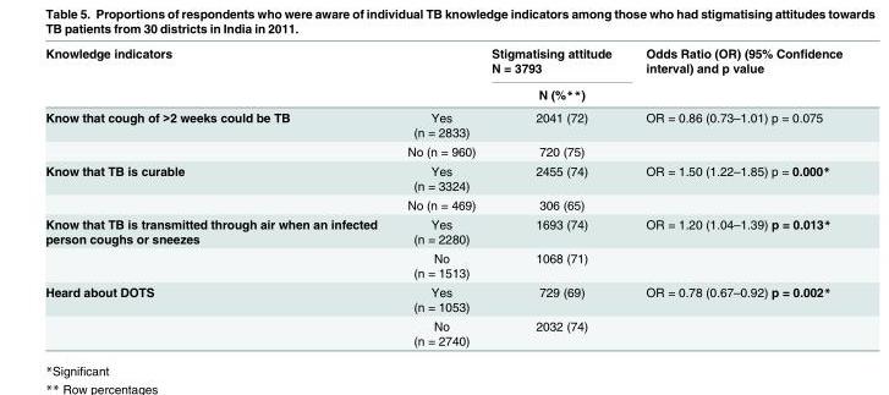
<table><thead><tr><td rowspan="2">Knowledge indicators</td><td rowspan="2"></td><td rowspan="2">Stigmatising attitude N = 3793 N (%**)</td><td rowspan="2">Odds Ratio (OR) (95% Confidence interval) and p value</td></tr><tr></tr></thead><tbody><tr><td rowspan="2">Know that cough of &gt;2 weeks could be TB</td><td>Yes (n = 2833)</td><td>2041 (72)</td><td>OR = 0.86 (0.73–1.01) p = 0.075</td></tr><tr><td>No (n = 960)</td><td>720 (75)</td><td></td></tr><tr><td rowspan="2">Know that TB is curable</td><td>Yes (n = 3324)</td><td>2455 (74)</td><td>OR = 1.50 (1.22–1.85) p = 0.000*</td></tr><tr><td>No (n = 469)</td><td>306 (65)</td><td></td></tr><tr><td rowspan="2">Know that TB is transmitted through air when an infected person coughs or sneezes</td><td>Yes (n = 2280)</td><td>1693 (74)</td><td>OR = 1.20 (1.04–1.39) p = 0.013*</td></tr><tr><td>No (n = 1513)</td><td>1068 (71)</td><td></td></tr><tr><td rowspan="2">Heard about DOTS</td><td>Yes (n = 1053)</td><td>729 (69)</td><td>OR = 0.78 (0.67–0.92) p = 0.002*</td></tr><tr><td>No (n = 2740)</td><td>2032 (74)</td><td></td></tr></tbody></table>